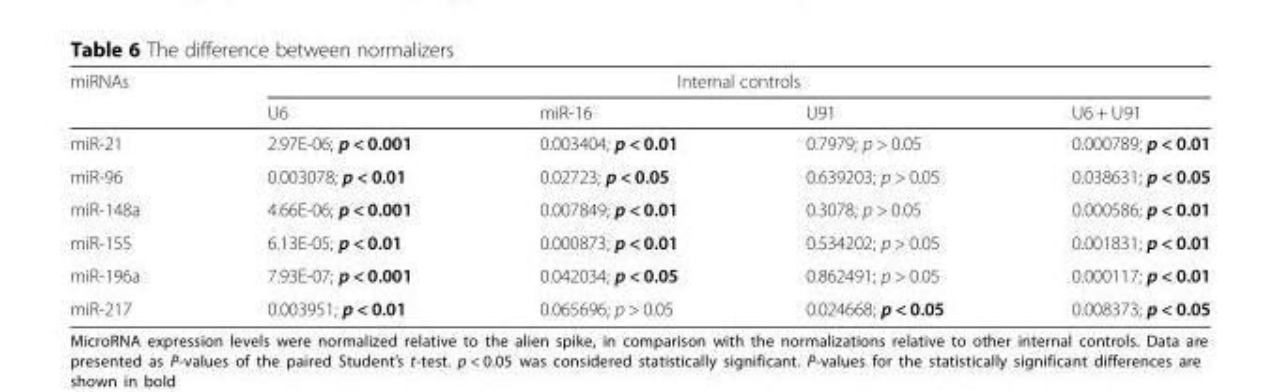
<table><thead><tr><td rowspan="2">miRNAs</td><td colspan="4">Internal controls</td></tr><tr><td>U6</td><td>miR-16</td><td>U91</td><td>U6 + U91</td></tr></thead><tbody><tr><td>miR-21</td><td>2.97E-06; p &lt; 0.001</td><td>0.003404; p &lt; 0.01</td><td>0.7979; p &gt; 0.05</td><td>0.000789; p &lt; 0.01</td></tr><tr><td>miR-96</td><td>0.003078; p &lt; 0.01</td><td>0.02723; p &lt; 0.05</td><td>0.639203; p &gt; 0.05</td><td>0.038631; p &lt; 0.05</td></tr><tr><td>miR-148a</td><td>4.66E-06; p &lt; 0.001</td><td>0.007849; p &lt; 0.01</td><td>0.3078; p &gt; 0.05</td><td>0.000586; p &lt; 0.01</td></tr><tr><td>miR-155</td><td>6.13E-05; p &lt; 0.01</td><td>0.000873; p &lt; 0.01</td><td>0.534202; p &gt; 0.05</td><td>0.001831; p &lt; 0.01</td></tr><tr><td>miR-196a</td><td>7.93E-07; p &lt; 0.001</td><td>0.042034; p &lt; 0.05</td><td>0.862491; p &gt; 0.05</td><td>0.000117; p &lt; 0.01</td></tr><tr><td>miR-217</td><td>0.003951; p &lt; 0.01</td><td>0.065696; p &gt; 0.05</td><td>0.024668; p &lt; 0.05</td><td>0.008373; p &lt; 0.05</td></tr></tbody></table>